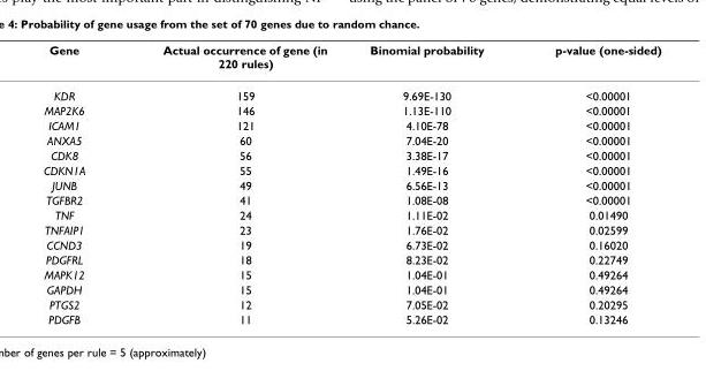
<table><thead><tr><td>Gene</td><td>Actual occurrence of gene (in 220 rules)</td><td>Binomial probability</td><td>p-value (one-sided)</td></tr></thead><tbody><tr><td>KDR</td><td>159</td><td>9.69E-130</td><td>&lt;0.00001</td></tr><tr><td>MAP2K6</td><td>146</td><td>1.13E-110</td><td>&lt;0.00001</td></tr><tr><td>ICAM1</td><td>121</td><td>4.10E-78</td><td>&lt;0.00001</td></tr><tr><td>ANXA5</td><td>60</td><td>7.04E-20</td><td>&lt;0.00001</td></tr><tr><td>CDK8</td><td>56</td><td>3.38E-17</td><td>&lt;0.00001</td></tr><tr><td>CDKN1A</td><td>55</td><td>1.49E-16</td><td>&lt;0.00001</td></tr><tr><td>JUNB</td><td>49</td><td>6.56E-13</td><td>&lt;0.00001</td></tr><tr><td>TGFBR2</td><td>41</td><td>1.08E-08</td><td>&lt;0.00001</td></tr><tr><td>TNF</td><td>24</td><td>1.11E-02</td><td>0.01490</td></tr><tr><td>TNFAIP1</td><td>23</td><td>1.76E-02</td><td>0.02599</td></tr><tr><td>CCND3</td><td>19</td><td>6.73E-02</td><td>0.16020</td></tr><tr><td>PDGFRL</td><td>18</td><td>8.23E-02</td><td>0.22749</td></tr><tr><td>MAPK12</td><td>15</td><td>1.04E-01</td><td>0.49264</td></tr><tr><td>GAPDH</td><td>15</td><td>1.04E-01</td><td>0.49264</td></tr><tr><td>PTGS2</td><td>12</td><td>7.05E-02</td><td>0.20295</td></tr><tr><td>PDGFB</td><td>11</td><td>5.26E-02</td><td>0.13246</td></tr></tbody></table>